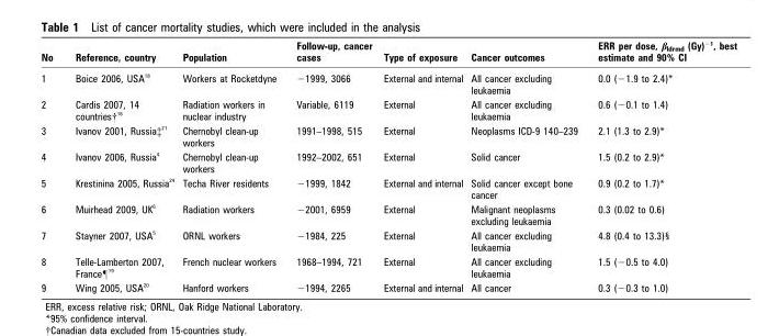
<table><thead><tr><td>No</td><td>Reference, country</td><td>Population</td><td>Follow-up, cancer cases</td><td>Type of exposure</td><td>Cancer outcomes</td><td>ERR per dose, β<sub>ldrmd</sub> (Gy)<sup>−1</sup>, best estimate and 90% CI</td></tr></thead><tbody><tr><td>1</td><td>Boice 2006, USA <sup>18</sup></td><td>Workers at Rocketdyne</td><td>−1999, 3066</td><td>External and internal</td><td>All cancer excluding leukaemia</td><td>0.0 (−1.9 to 2.4)*</td></tr><tr><td>2</td><td>Cardis 2007, 14 countries† <sup>16</sup></td><td>Radiation workers in nuclear industry</td><td>Variable, 6119</td><td>External</td><td>All cancer excluding leukaemia</td><td>0.6 (−0.1 to 1.4)</td></tr><tr><td>3</td><td>Ivanov 2001, Russia‡ <sup>21</sup></td><td>Chernobyl clean-up workers</td><td>1991–1998, 515</td><td>External</td><td>Neoplasms ICD-9 140–239</td><td>2.1 (1.3 to 2.9)*</td></tr><tr><td>4</td><td>Ivanov 2006, Russia <sup>4</sup></td><td>Chernobyl clean-up workers</td><td>1992–2002, 651</td><td>External</td><td>Solid cancer</td><td>1.5 (0.2 to 2.9)*</td></tr><tr><td>5</td><td>Krestinina 2005, Russia <sup>24</sup></td><td>Techa River residents</td><td>−1999, 1842</td><td>External and internal</td><td>Solid cancer except bone cancer</td><td>0.9 (0.2 to 1.7)*</td></tr><tr><td>6</td><td>Muirhead 2009, UK <sup>6</sup></td><td>Radiation workers</td><td>−2001, 6959</td><td>External</td><td>Malignant neoplasms excluding leukaemia</td><td>0.3 (0.02 to 0.6)</td></tr><tr><td>7</td><td>Stayner 2007, USA <sup>5</sup></td><td>ORNL workers</td><td>−1984, 225</td><td>External</td><td>All cancer excluding leukaemia</td><td>4.8 (0.4 to 13.3)§</td></tr><tr><td>8</td><td>Telle-Lamberton 2007, France¶ <sup>19</sup></td><td>French nuclear workers</td><td>1968–1994, 721</td><td>External</td><td>All cancer excluding leukaemia</td><td>1.5 (−0.5 to 4.0)</td></tr><tr><td>9</td><td>Wing 2005, USA <sup>20</sup></td><td>Hanford workers</td><td>−1994, 2265</td><td>External and internal</td><td>All cancer</td><td>0.3 (−0.3 to 1.0)</td></tr></tbody></table>